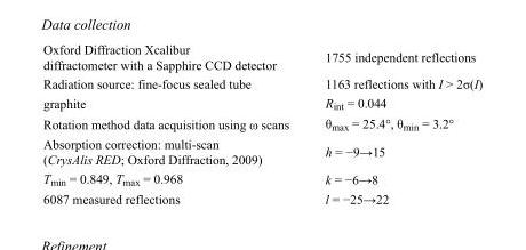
<table><tbody><tr><td>Oxford Diffraction Xcalibur diffractometer with a Sapphire CCD detector</td><td>1755 independent reflections</td></tr><tr><td>Radiation source: fine-focus sealed tube</td><td>1163 reflections with I &gt; 2σ(I)</td></tr><tr><td>graphite</td><td>R<sub>int</sub> = 0.044</td></tr><tr><td>Rotation method data acquisition using ω scans</td><td>θ<sub>max</sub> = 25.4°, θ<sub>min</sub> = 3.2°</td></tr><tr><td>Absorption correction: multi-scan (CrysAlis RED; Oxford Diffraction, 2009)</td><td>h = −9→15</td></tr><tr><td>T<sub>min</sub> = 0.849, T<sub>max</sub> = 0.968</td><td>k = −6→8</td></tr><tr><td>6087 measured reflections</td><td>l = −25→22</td></tr></tbody></table>